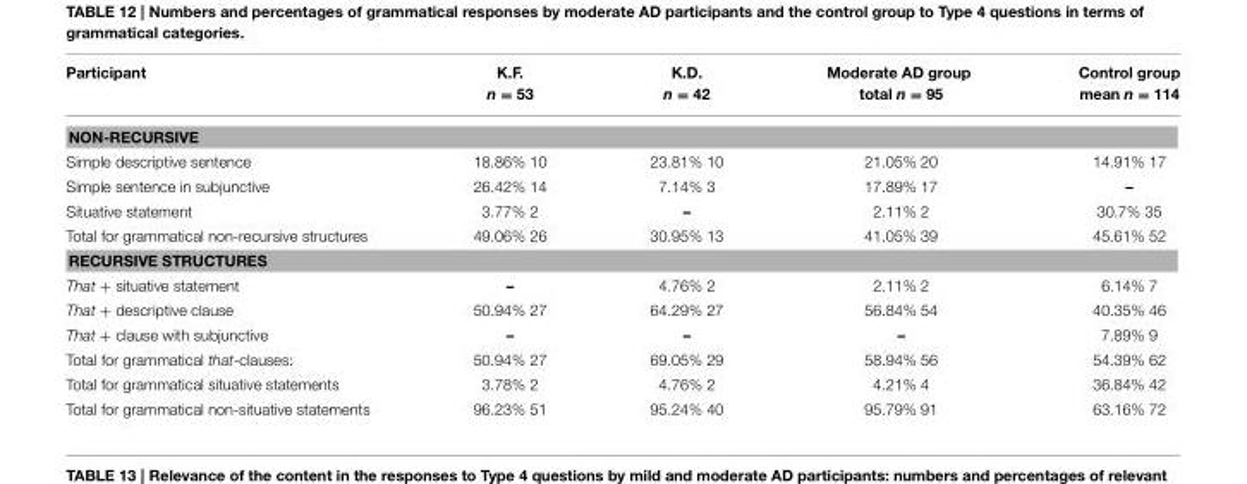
<table><thead><tr><td>Participant</td><td>K.F. n = 53</td><td>K.D. n = 42</td><td>Moderate AD group total n = 95</td><td>Control group mean n = 114</td></tr></thead><tbody><tr><td colspan="5">NON-RECURSIVE</td></tr><tr><td>Simple descriptive sentence</td><td>18.86% 10</td><td>23.81% 10</td><td>21.05% 20</td><td>14.91% 17</td></tr><tr><td>Simple sentence in subjunctive</td><td>26.42% 14</td><td>7.14% 3</td><td>17.89% 17</td><td>–</td></tr><tr><td>Situative statement</td><td>3.77% 2</td><td>–</td><td>2.11% 2</td><td>30.7% 35</td></tr><tr><td>Total for grammatical non-recursive structures</td><td>49.06% 26</td><td>30.95% 13</td><td>41.05% 39</td><td>45.61% 52</td></tr><tr><td colspan="5">RECURSIVE STRUCTURES</td></tr><tr><td>That + situative statement</td><td>–</td><td>4.76% 2</td><td>2.11% 2</td><td>6.14% 7</td></tr><tr><td>That + descriptive clause</td><td>50.94% 27</td><td>64.29% 27</td><td>56.84% 54</td><td>40.35% 46</td></tr><tr><td>That + clause with subjunctive</td><td>–</td><td>–</td><td>–</td><td>7.89% 9</td></tr><tr><td>Total for grammatical that-clauses:</td><td>50.94% 27</td><td>69.05% 29</td><td>58.94% 56</td><td>54.39% 62</td></tr><tr><td>Total for grammatical situative statements</td><td>3.78% 2</td><td>4.76% 2</td><td>4.21% 4</td><td>36.84% 42</td></tr><tr><td>Total for grammatical non-situative statements</td><td>96.23% 51</td><td>95.24% 40</td><td>95.79% 91</td><td>63.16% 72</td></tr></tbody></table>